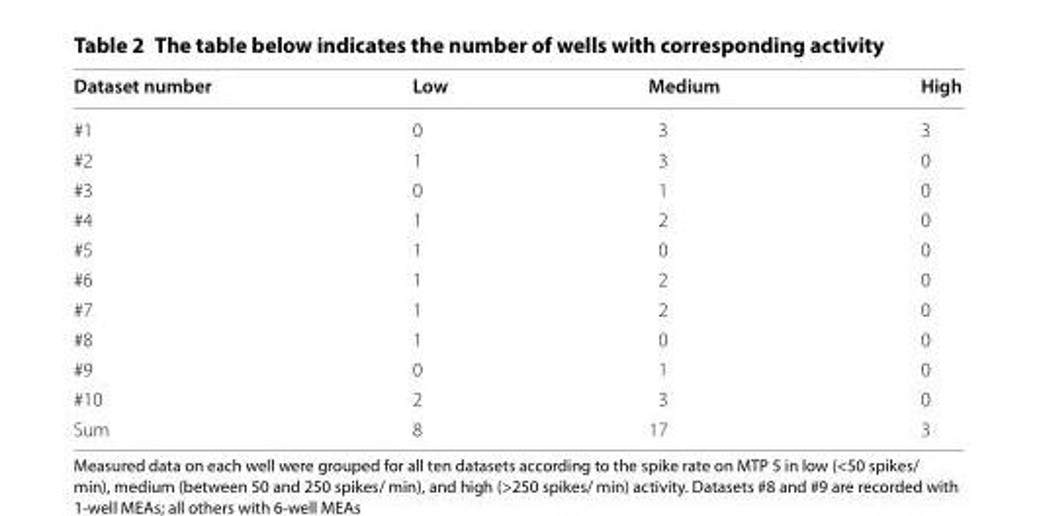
<table><thead><tr><td>Dataset number</td><td>Low</td><td>Medium</td><td>High</td></tr></thead><tbody><tr><td>#1</td><td>0</td><td>3</td><td>3</td></tr><tr><td>#2</td><td>1</td><td>3</td><td>0</td></tr><tr><td>#3</td><td>0</td><td>1</td><td>0</td></tr><tr><td>#4</td><td>1</td><td>2</td><td>0</td></tr><tr><td>#5</td><td>1</td><td>0</td><td>0</td></tr><tr><td>#6</td><td>1</td><td>2</td><td>0</td></tr><tr><td>#7</td><td>1</td><td>2</td><td>0</td></tr><tr><td>#8</td><td>1</td><td>0</td><td>0</td></tr><tr><td>#9</td><td>0</td><td>1</td><td>0</td></tr><tr><td>#10</td><td>2</td><td>3</td><td>0</td></tr><tr><td>Sum</td><td>8</td><td>17</td><td>3</td></tr></tbody></table>